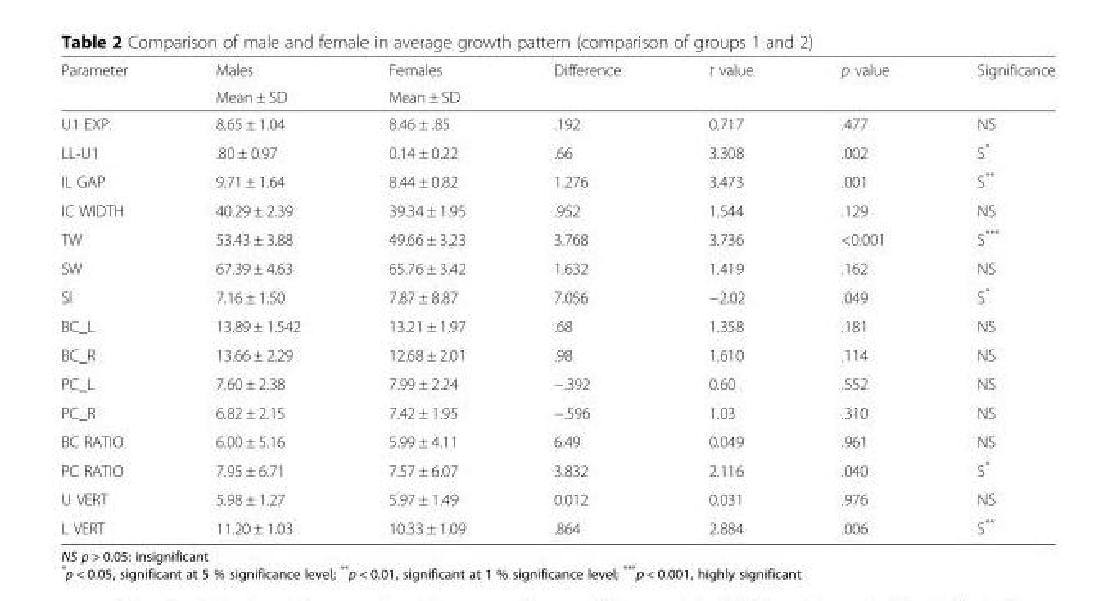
<table><thead><tr><td rowspan="2">Parameter</td><td rowspan="2">Males Mean ± SD</td><td rowspan="2">Females Mean ± SD</td><td rowspan="2">Difference</td><td rowspan="2">t value</td><td rowspan="2">p value</td><td rowspan="2">Significance</td></tr><tr></tr></thead><tbody><tr><td>U1 EXP.</td><td>8.65 ± 1.04</td><td>8.46 ± .85</td><td>.192</td><td>0.717</td><td>.477</td><td>NS</td></tr><tr><td>LL-U1</td><td>.80 ± 0.97</td><td>0.14 ± 0.22</td><td>.66</td><td>3.308</td><td>.002</td><td>S*</td></tr><tr><td>IL GAP</td><td>9.71 ± 1.64</td><td>8.44 ± 0.82</td><td>1.276</td><td>3.473</td><td>.001</td><td>S**</td></tr><tr><td>IC WIDTH</td><td>40.29 ± 2.39</td><td>39.34 ± 1.95</td><td>.952</td><td>1.544</td><td>.129</td><td>NS</td></tr><tr><td>TW</td><td>53.43 ± 3.88</td><td>49.66 ± 3.23</td><td>3.768</td><td>3.736</td><td>&lt;0.001</td><td>S***</td></tr><tr><td>SW</td><td>67.39 ± 4.63</td><td>65.76 ± 3.42</td><td>1.632</td><td>1.419</td><td>.162</td><td>NS</td></tr><tr><td>SI</td><td>7.16 ± 1.50</td><td>7.87 ± 8.87</td><td>7.056</td><td>−2.02</td><td>.049</td><td>S*</td></tr><tr><td>BC_L</td><td>13.89 ± 1.542</td><td>13.21 ± 1.97</td><td>.68</td><td>1.358</td><td>.181</td><td>NS</td></tr><tr><td>BC_R</td><td>13.66 ± 2.29</td><td>12.68 ± 2.01</td><td>.98</td><td>1.610</td><td>.114</td><td>NS</td></tr><tr><td>PC_L</td><td>7.60 ± 2.38</td><td>7.99 ± 2.24</td><td>−.392</td><td>0.60</td><td>.552</td><td>NS</td></tr><tr><td>PC_R</td><td>6.82 ± 2.15</td><td>7.42 ± 1.95</td><td>−.596</td><td>1.03</td><td>.310</td><td>NS</td></tr><tr><td>BC RATIO</td><td>6.00 ± 5.16</td><td>5.99 ± 4.11</td><td>6.49</td><td>0.049</td><td>.961</td><td>NS</td></tr><tr><td>PC RATIO</td><td>7.95 ± 6.71</td><td>7.57 ± 6.07</td><td>3.832</td><td>2.116</td><td>.040</td><td>S*</td></tr><tr><td>U VERT</td><td>5.98 ± 1.27</td><td>5.97 ± 1.49</td><td>0.012</td><td>0.031</td><td>.976</td><td>NS</td></tr><tr><td>L VERT</td><td>11.20 ± 1.03</td><td>10.33 ± 1.09</td><td>.864</td><td>2.884</td><td>.006</td><td>S**</td></tr></tbody></table>